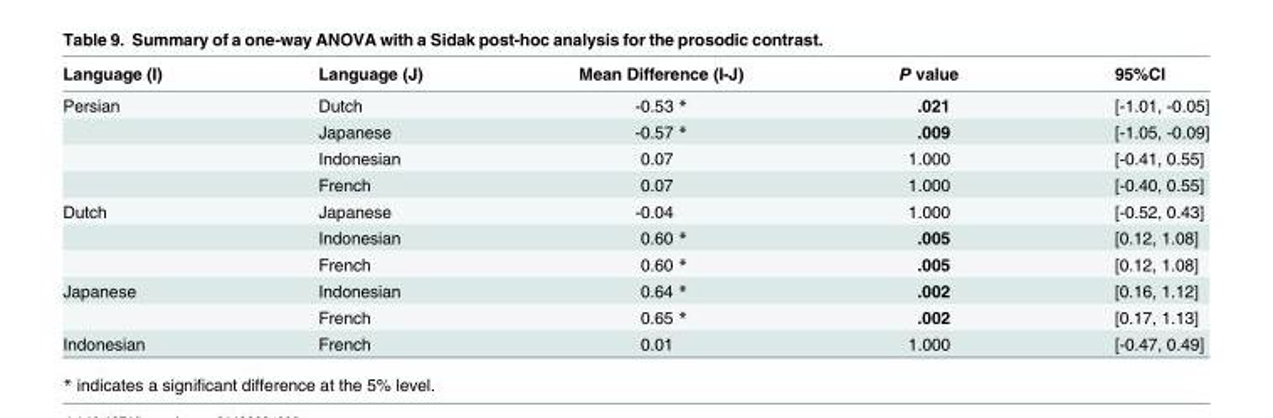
<table><thead><tr><td>Language (I)</td><td>Language (J)</td><td>Mean Difference (I-J)</td><td>P value</td><td>95%CI</td></tr></thead><tbody><tr><td rowspan="4">Persian</td><td>Dutch</td><td>-0.53 *</td><td>.021</td><td>[-1.01, -0.05]</td></tr><tr><td>Japanese</td><td>-0.57 *</td><td>.009</td><td>[-1.05, -0.09]</td></tr><tr><td>Indonesian</td><td>0.07</td><td>1.000</td><td>[-0.41, 0.55]</td></tr><tr><td>French</td><td>0.07</td><td>1.000</td><td>[-0.40, 0.55]</td></tr><tr><td rowspan="3">Dutch</td><td>Japanese</td><td>-0.04</td><td>1.000</td><td>[-0.52, 0.43]</td></tr><tr><td>Indonesian</td><td>0.60 *</td><td>.005</td><td>[0.12, 1.08]</td></tr><tr><td>French</td><td>0.60 *</td><td>.005</td><td>[0.12, 1.08]</td></tr><tr><td rowspan="2">Japanese</td><td>Indonesian</td><td>0.64 *</td><td>.002</td><td>[0.16, 1.12]</td></tr><tr><td>French</td><td>0.65 *</td><td>.002</td><td>[0.17, 1.13]</td></tr><tr><td>Indonesian</td><td>French</td><td>0.01</td><td>1.000</td><td>[-0.47, 0.49]</td></tr></tbody></table>